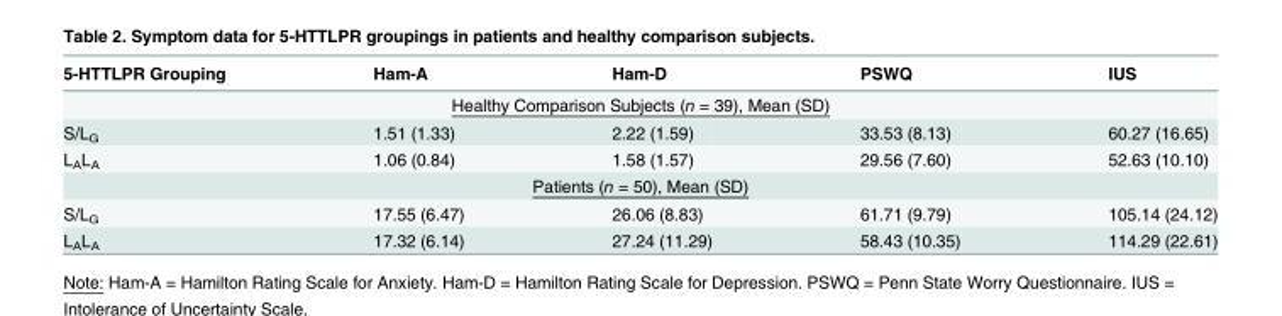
<table><thead><tr><td>5-HTTLPR Grouping</td><td>Ham-A</td><td>Ham-D</td><td>PSWQ</td><td>IUS</td></tr></thead><tbody><tr><td colspan="5">Healthy Comparison Subjects (n = 39), Mean (SD)</td></tr><tr><td>S/L<sub>G</sub></td><td>1.51 (1.33)</td><td>2.22 (1.59)</td><td>33.53 (8.13)</td><td>60.27 (16.65)</td></tr><tr><td>L<sub>A</sub>L<sub>A</sub></td><td>1.06 (0.84)</td><td>1.58 (1.57)</td><td>29.56 (7.60)</td><td>52.63 (10.10)</td></tr><tr><td colspan="5">Patients (n = 50), Mean (SD)</td></tr><tr><td>S/L<sub>G</sub></td><td>17.55 (6.47)</td><td>26.06 (8.83)</td><td>61.71 (9.79)</td><td>105.14 (24.12)</td></tr><tr><td>L<sub>A</sub>L<sub>A</sub></td><td>17.32 (6.14)</td><td>27.24 (11.29)</td><td>58.43 (10.35)</td><td>114.29 (22.61)</td></tr></tbody></table>